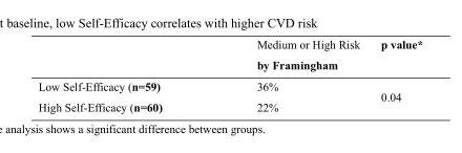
<table><thead><tr><td></td><td>Medium or High Risk by Framingham</td><td>p value*</td></tr></thead><tbody><tr><td>Low Self-Efficacy (n=59)</td><td>36%</td><td rowspan="2">0.04</td></tr><tr><td>High Self-Efficacy (n=60)</td><td>22%</td></tr></tbody></table>